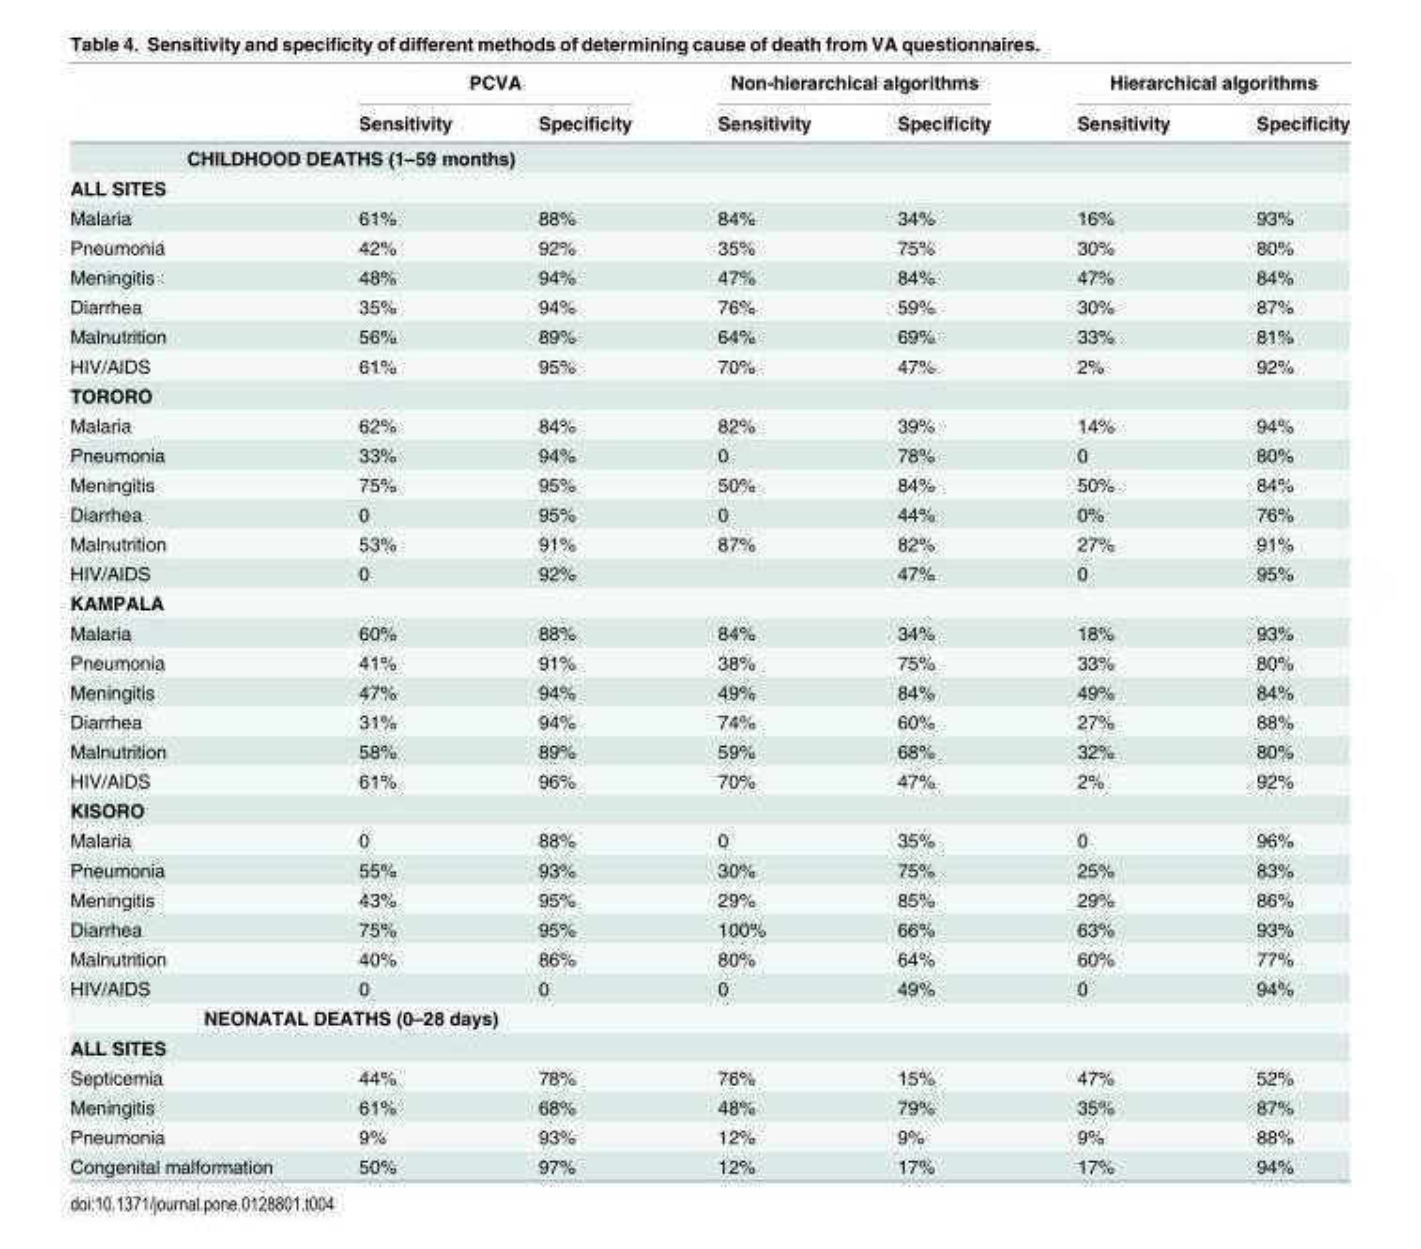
<table><thead><tr><td rowspan="2"></td><td colspan="2">PCVA</td><td colspan="2">Non-hierarchical algorithms</td><td colspan="2">Hierarchical algorithms</td></tr><tr><td>Sensitivity</td><td>Specificity</td><td>Sensitivity</td><td>Specificity</td><td>Sensitivity</td><td>Specificity</td></tr></thead><tbody><tr><td colspan="7">CHILDHOOD DEATHS (1–59 months)</td></tr><tr><td colspan="7">ALL SITES</td></tr><tr><td>Malaria</td><td>61%</td><td>88%</td><td>84%</td><td>34%</td><td>16%</td><td>93%</td></tr><tr><td>Pneumonia</td><td>42%</td><td>92%</td><td>35%</td><td>75%</td><td>30%</td><td>80%</td></tr><tr><td>Meningitis</td><td>48%</td><td>94%</td><td>47%</td><td>84%</td><td>47%</td><td>84%</td></tr><tr><td>Diarrhea</td><td>35%</td><td>94%</td><td>76%</td><td>59%</td><td>30%</td><td>87%</td></tr><tr><td>Malnutrition</td><td>56%</td><td>89%</td><td>64%</td><td>69%</td><td>33%</td><td>81%</td></tr><tr><td>HIV/AIDS</td><td>61%</td><td>95%</td><td>70%</td><td>47%</td><td>2%</td><td>92%</td></tr><tr><td colspan="7">TORORO</td></tr><tr><td>Malaria</td><td>62%</td><td>84%</td><td>82%</td><td>39%</td><td>14%</td><td>94%</td></tr><tr><td>Pneumonia</td><td>33%</td><td>94%</td><td>0</td><td>78%</td><td>0</td><td>80%</td></tr><tr><td>Meningitis</td><td>75%</td><td>95%</td><td>50%</td><td>84%</td><td>50%</td><td>84%</td></tr><tr><td>Diarrhea</td><td>0</td><td>95%</td><td>0</td><td>44%</td><td>0%</td><td>76%</td></tr><tr><td>Malnutrition</td><td>53%</td><td>91%</td><td>87%</td><td>82%</td><td>27%</td><td>91%</td></tr><tr><td>HIV/AIDS</td><td>0</td><td>92%</td><td></td><td>47%</td><td>0</td><td>95%</td></tr><tr><td colspan="7">KAMPALA</td></tr><tr><td>Malaria</td><td>60%</td><td>88%</td><td>84%</td><td>34%</td><td>18%</td><td>93%</td></tr><tr><td>Pneumonia</td><td>41%</td><td>91%</td><td>38%</td><td>75%</td><td>33%</td><td>80%</td></tr><tr><td>Meningitis</td><td>47%</td><td>94%</td><td>49%</td><td>84%</td><td>49%</td><td>84%</td></tr><tr><td>Diarrhea</td><td>31%</td><td>94%</td><td>74%</td><td>60%</td><td>27%</td><td>88%</td></tr><tr><td>Malnutrition</td><td>58%</td><td>89%</td><td>59%</td><td>68%</td><td>32%</td><td>80%</td></tr><tr><td>HIV/AIDS</td><td>61%</td><td>96%</td><td>70%</td><td>47%</td><td>2%</td><td>92%</td></tr><tr><td colspan="7">KISORO</td></tr><tr><td>Malaria</td><td>0</td><td>88%</td><td>0</td><td>35%</td><td>0</td><td>96%</td></tr><tr><td>Pneumonia</td><td>55%</td><td>93%</td><td>30%</td><td>75%</td><td>25%</td><td>83%</td></tr><tr><td>Meningitis</td><td>43%</td><td>95%</td><td>29%</td><td>85%</td><td>29%</td><td>86%</td></tr><tr><td>Diarrhea</td><td>75%</td><td>95%</td><td>100%</td><td>66%</td><td>63%</td><td>93%</td></tr><tr><td>Malnutrition</td><td>40%</td><td>86%</td><td>80%</td><td>64%</td><td>60%</td><td>77%</td></tr><tr><td>HIV/AIDS</td><td>0</td><td>0</td><td>0</td><td>49%</td><td>0</td><td>94%</td></tr><tr><td colspan="7">NEONATAL DEATHS (0–28 days)</td></tr><tr><td colspan="7">ALL SITES</td></tr><tr><td>Septicemia</td><td>44%</td><td>78%</td><td>76%</td><td>15%</td><td>47%</td><td>52%</td></tr><tr><td>Meningitis</td><td>61%</td><td>68%</td><td>48%</td><td>79%</td><td>35%</td><td>87%</td></tr><tr><td>Pneumonia</td><td>9%</td><td>93%</td><td>12%</td><td>9%</td><td>9%</td><td>88%</td></tr><tr><td>Congenital malformation</td><td>50%</td><td>97%</td><td>12%</td><td>17%</td><td>17%</td><td>94%</td></tr></tbody></table>